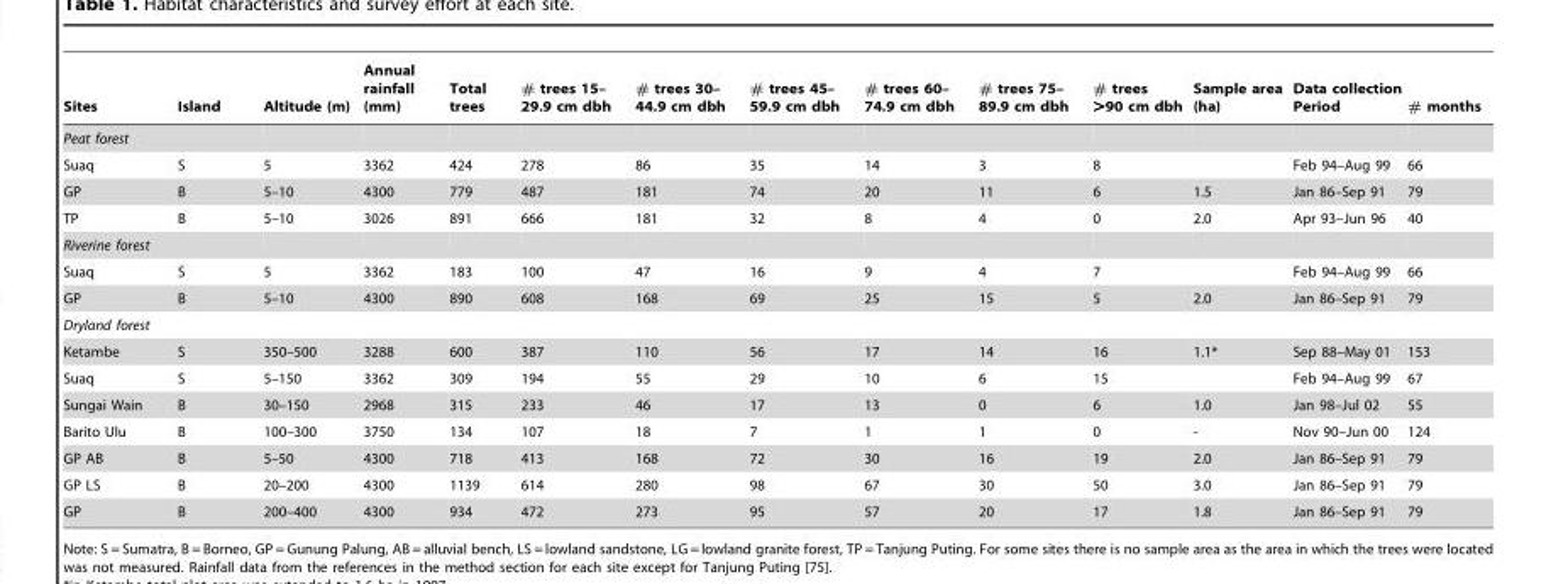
<table><thead><tr><td>Sites</td><td>Island</td><td>Altitude (m)</td><td>Annual rainfall (mm)</td><td>Total trees</td><td># trees 15– 29.9 cm dbh</td><td># trees 30– 44.9 cm dbh</td><td># trees 45– 59.9 cm dbh</td><td># trees 60– 74.9 cm dbh</td><td># trees 75– 89.9 cm dbh</td><td># trees &gt;90 cm dbh</td><td>Sample area (ha)</td><td>Data collection Period</td><td># months</td></tr></thead><tbody><tr><td colspan="14">Peat forest</td></tr><tr><td>Suaq</td><td>S</td><td>5</td><td>3362</td><td>424</td><td>278</td><td>86</td><td>35</td><td>14</td><td>3</td><td>8</td><td></td><td>Feb 94–Aug 99</td><td>66</td></tr><tr><td>GP</td><td>B</td><td>5–10</td><td>4300</td><td>779</td><td>487</td><td>181</td><td>74</td><td>20</td><td>11</td><td>6</td><td>1.5</td><td>Jan 86–Sep 91</td><td>79</td></tr><tr><td>TP</td><td>B</td><td>5–10</td><td>3026</td><td>891</td><td>666</td><td>181</td><td>32</td><td>8</td><td>4</td><td>0</td><td>2.0</td><td>Apr 93–Jun 96</td><td>40</td></tr><tr><td colspan="14">Riverine forest</td></tr><tr><td>Suaq</td><td>S</td><td>5</td><td>3362</td><td>183</td><td>100</td><td>47</td><td>16</td><td>9</td><td>4</td><td>7</td><td></td><td>Feb 94–Aug 99</td><td>66</td></tr><tr><td>GP</td><td>B</td><td>5–10</td><td>4300</td><td>890</td><td>608</td><td>168</td><td>69</td><td>25</td><td>15</td><td>5</td><td>2.0</td><td>Jan 86–Sep 91</td><td>79</td></tr><tr><td colspan="14">Dryland forest</td></tr><tr><td>Ketambe</td><td>S</td><td>350–500</td><td>3288</td><td>600</td><td>387</td><td>110</td><td>56</td><td>17</td><td>14</td><td>16</td><td>1.1*</td><td>Sep 88–May 01</td><td>153</td></tr><tr><td>Suaq</td><td>S</td><td>5–150</td><td>3362</td><td>309</td><td>194</td><td>55</td><td>29</td><td>10</td><td>6</td><td>15</td><td></td><td>Feb 94–Aug 99</td><td>67</td></tr><tr><td>Sungai Wain</td><td>B</td><td>30–150</td><td>2968</td><td>315</td><td>233</td><td>46</td><td>17</td><td>13</td><td>0</td><td>6</td><td>1.0</td><td>Jan 98–Jul 02</td><td>55</td></tr><tr><td>Barito Ulu</td><td>B</td><td>100–300</td><td>3750</td><td>134</td><td>107</td><td>18</td><td>7</td><td>1</td><td>1</td><td>0</td><td>-</td><td>Nov 90–Jun 00</td><td>124</td></tr><tr><td>GP AB</td><td>B</td><td>5–50</td><td>4300</td><td>718</td><td>413</td><td>168</td><td>72</td><td>30</td><td>16</td><td>19</td><td>2.0</td><td>Jan 86–Sep 91</td><td>79</td></tr><tr><td>GP LS</td><td>B</td><td>20–200</td><td>4300</td><td>1139</td><td>614</td><td>280</td><td>98</td><td>67</td><td>30</td><td>50</td><td>3.0</td><td>Jan 86–Sep 91</td><td>79</td></tr><tr><td>GP</td><td>B</td><td>200–400</td><td>4300</td><td>934</td><td>472</td><td>273</td><td>95</td><td>57</td><td>20</td><td>17</td><td>1.8</td><td>Jan 86–Sep 91</td><td>79</td></tr></tbody></table>